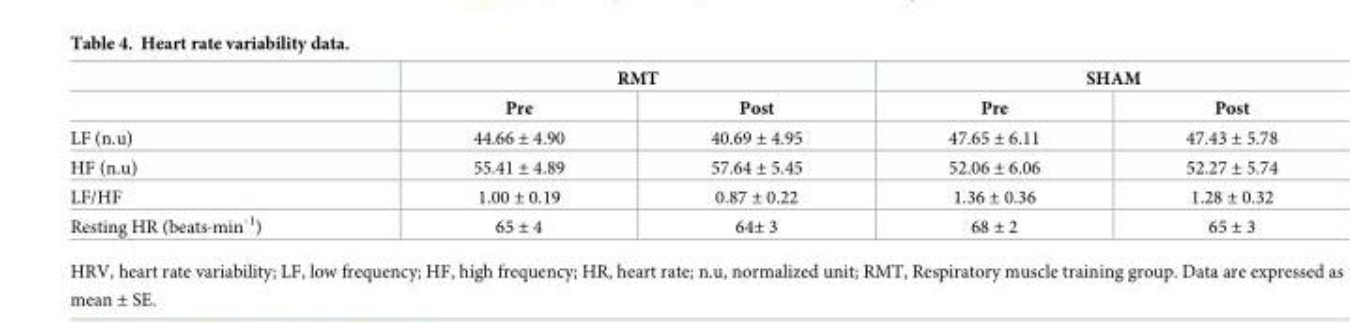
<table><thead><tr><td rowspan="2"></td><td colspan="2">RMT</td><td colspan="2">SHAM</td></tr><tr><td>Pre</td><td>Post</td><td>Pre</td><td>Post</td></tr></thead><tbody><tr><td>LF (n.u)</td><td>44.66 ± 4.90</td><td>40.69 ± 4.95</td><td>47.65 ± 6.11</td><td>47.43 ± 5.78</td></tr><tr><td>HF (n.u)</td><td>55.41 ± 4.89</td><td>57.64 ± 5.45</td><td>52.06 ± 6.06</td><td>52.27 ± 5.74</td></tr><tr><td>LF/HF</td><td>1.00 ± 0.19</td><td>0.87 ± 0.22</td><td>1.36 ± 0.36</td><td>1.28 ± 0.32</td></tr><tr><td>Resting HR (beats·min<sup>-1</sup>)</td><td>65 ± 4</td><td>64± 3</td><td>68 ± 2</td><td>65 ± 3</td></tr></tbody></table>